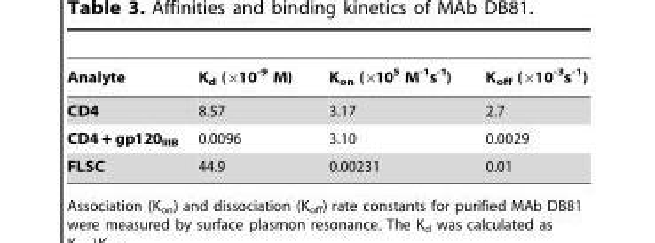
<table><thead><tr><td>Analyte</td><td>K<sub>d</sub> (×10<sup>-9</sup> M)</td><td>K<sub>on</sub> (×10<sup>5</sup> M<sup>-1</sup>s<sup>-1</sup>)</td><td>K<sub>off</sub> (×10<sup>-3</sup>s<sup>-1</sup>)</td></tr></thead><tbody><tr><td>CD4</td><td>8.57</td><td>3.17</td><td>2.7</td></tr><tr><td>CD4 + gp120<sub>IIIB</sub></td><td>0.0096</td><td>3.10</td><td>0.0029</td></tr><tr><td>FLSC</td><td>44.9</td><td>0.00231</td><td>0.01</td></tr></tbody></table>